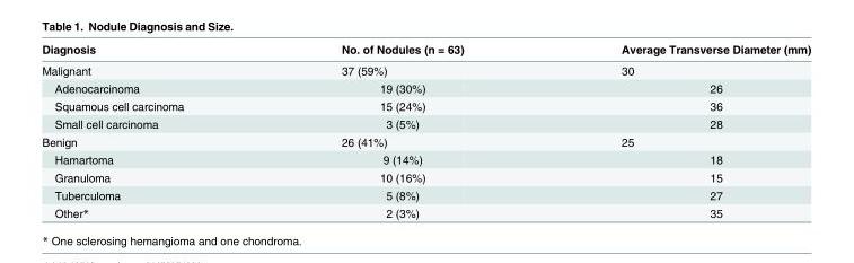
<table><thead><tr><td>Diagnosis</td><td>No. of Nodules (n = 63)</td><td>Average Transverse Diameter (mm)</td></tr></thead><tbody><tr><td>Malignant</td><td>37 (59%)</td><td>30</td></tr><tr><td>Adenocarcinoma</td><td>19 (30%)</td><td>26</td></tr><tr><td>Squamous cell carcinoma</td><td>15 (24%)</td><td>36</td></tr><tr><td>Small cell carcinoma</td><td>3 (5%)</td><td>28</td></tr><tr><td>Benign</td><td>26 (41%)</td><td>25</td></tr><tr><td>Hamartoma</td><td>9 (14%)</td><td>18</td></tr><tr><td>Granuloma</td><td>10 (16%)</td><td>15</td></tr><tr><td>Tuberculoma</td><td>5 (8%)</td><td>27</td></tr><tr><td>Other*</td><td>2 (3%)</td><td>35</td></tr></tbody></table>